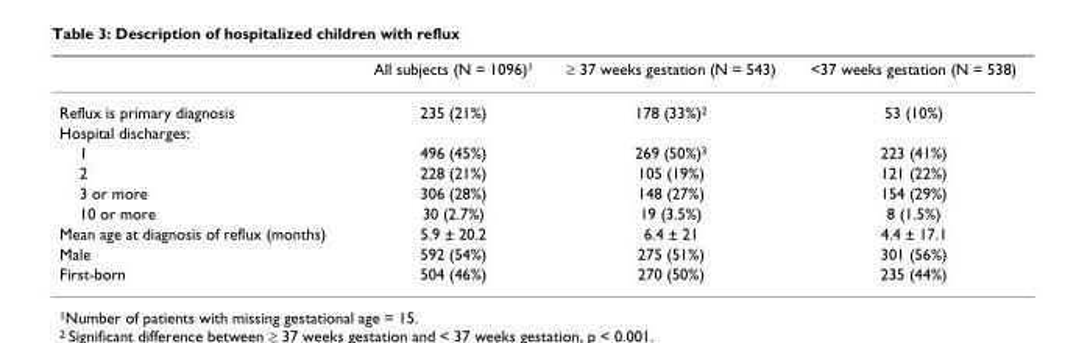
<table><thead><tr><td></td><td>All subjects (N = 1096)<sup>1</sup></td><td>≥ 37 weeks gestation (N = 543)</td><td>&lt;37 weeks gestation (N = 538)</td></tr></thead><tbody><tr><td>Reflux is primary diagnosis</td><td>235 (21%)</td><td>178 (33%)<sup>2</sup></td><td>53 (10%)</td></tr><tr><td colspan="4">Hospital discharges:</td></tr><tr><td>1</td><td>496 (45%)</td><td>269 (50%)<sup>3</sup></td><td>223 (41%)</td></tr><tr><td>2</td><td>228 (21%)</td><td>105 (19%)</td><td>121 (22%)</td></tr><tr><td>3 or more</td><td>306 (28%)</td><td>148 (27%)</td><td>154 (29%)</td></tr><tr><td>10 or more</td><td>30 (2.7%)</td><td>19 (3.5%)</td><td>8 (1.5%)</td></tr><tr><td>Mean age at diagnosis of reflux (months)</td><td>5.9 ± 20.2</td><td>6.4 ± 21</td><td>4.4 ± 17.1</td></tr><tr><td>Male</td><td>592 (54%)</td><td>275 (51%)</td><td>301 (56%)</td></tr><tr><td>First-born</td><td>504 (46%)</td><td>270 (50%)</td><td>235 (44%)</td></tr></tbody></table>